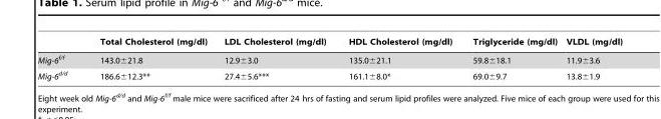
<table><thead><tr><td></td><td>Total Cholesterol (mg/dl)</td><td>LDL Cholesterol (mg/dl)</td><td>HDL Cholesterol (mg/dl)</td><td>Triglyceride (mg/dl)</td><td>VLDL (mg/dl)</td></tr></thead><tbody><tr><td>Mig-6<sup>f/f</sup></td><td>143.0±21.8</td><td>12.9±3.0</td><td>135.0±21.1</td><td>59.8±18.1</td><td>11.9±3.6</td></tr><tr><td>Mig-6<sup>d/d</sup></td><td>186.6±12.3**</td><td>27.4±5.6***</td><td>161.1±8.0*</td><td>69.0±9.7</td><td>13.8±1.9</td></tr></tbody></table>